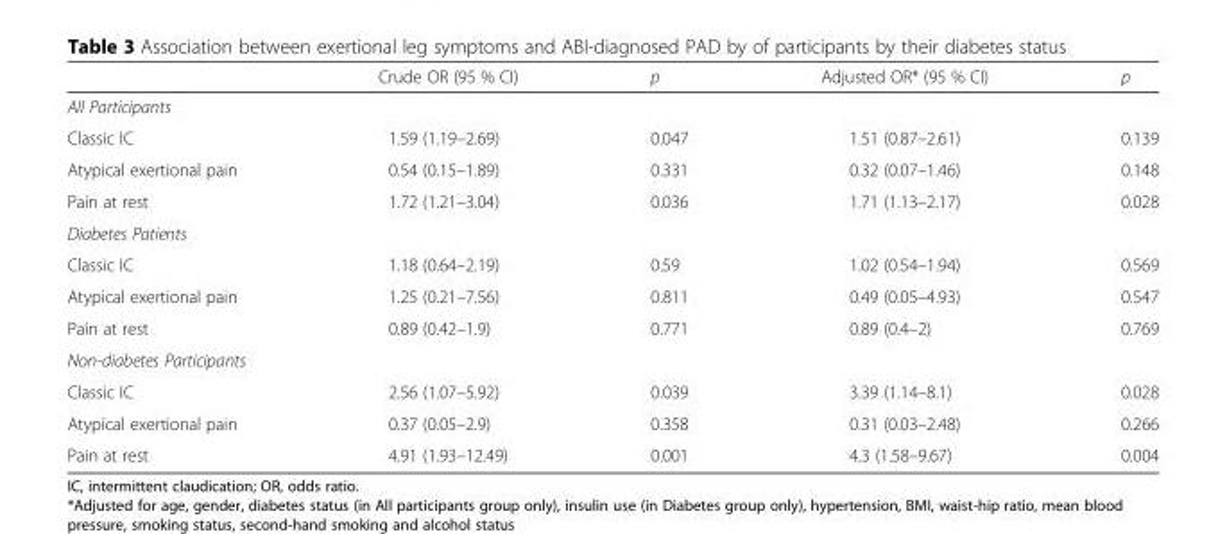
<table><thead><tr><td></td><td>Crude OR (95 % CI)</td><td>p</td><td>Adjusted OR* (95 % CI)</td><td>p</td></tr></thead><tbody><tr><td colspan="5">All Participants</td></tr><tr><td>Classic IC</td><td>1.59 (1.19–2.69)</td><td>0.047</td><td>1.51 (0.87–2.61)</td><td>0.139</td></tr><tr><td>Atypical exertional pain</td><td>0.54 (0.15–1.89)</td><td>0.331</td><td>0.32 (0.07–1.46)</td><td>0.148</td></tr><tr><td>Pain at rest</td><td>1.72 (1.21–3.04)</td><td>0.036</td><td>1.71 (1.13–2.17)</td><td>0.028</td></tr><tr><td colspan="5">Diabetes Patients</td></tr><tr><td>Classic IC</td><td>1.18 (0.64–2.19)</td><td>0.59</td><td>1.02 (0.54–1.94)</td><td>0.569</td></tr><tr><td>Atypical exertional pain</td><td>1.25 (0.21–7.56)</td><td>0.811</td><td>0.49 (0.05–4.93)</td><td>0.547</td></tr><tr><td>Pain at rest</td><td>0.89 (0.42–1.9)</td><td>0.771</td><td>0.89 (0.4–2)</td><td>0.769</td></tr><tr><td colspan="5">Non-diabetes Participants</td></tr><tr><td>Classic IC</td><td>2.56 (1.07–5.92)</td><td>0.039</td><td>3.39 (1.14–8.1)</td><td>0.028</td></tr><tr><td>Atypical exertional pain</td><td>0.37 (0.05–2.9)</td><td>0.358</td><td>0.31 (0.03–2.48)</td><td>0.266</td></tr><tr><td>Pain at rest</td><td>4.91 (1.93–12.49)</td><td>0.001</td><td>4.3 (1.58–9.67)</td><td>0.004</td></tr></tbody></table>